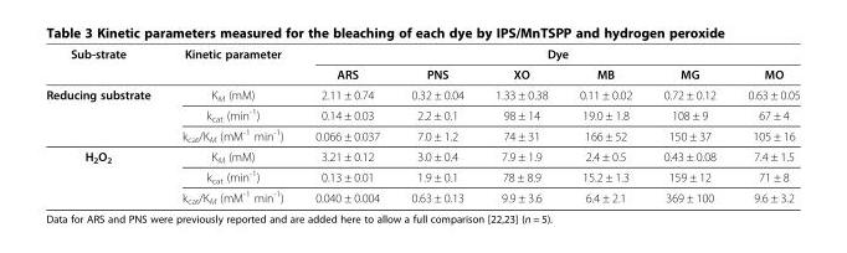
<table><thead><tr><td rowspan="2">Sub-strate</td><td rowspan="2">Kinetic parameter</td><td colspan="6">Dye</td></tr><tr><td>ARS</td><td>PNS</td><td>XO</td><td>MB</td><td>MG</td><td>MO</td></tr></thead><tbody><tr><td rowspan="3">Reducing substrate</td><td>K<sub>M</sub> (mM)</td><td>2.11 ± 0.74</td><td>0.32 ± 0.04</td><td>1.33 ± 0.38</td><td>0.11 ± 0.02</td><td>0.72 ± 0.12</td><td>0.63 ± 0.05</td></tr><tr><td>k<sub>cat</sub> (min<sup>-1</sup>)</td><td>0.14 ± 0.03</td><td>2.2 ± 0.1</td><td>98 ± 14</td><td>19.0 ± 1.8</td><td>108 ± 9</td><td>67 ± 4</td></tr><tr><td>k<sub>cat</sub>/K<sub>M</sub> (mM<sup>-1</sup> min<sup>-1</sup>)</td><td>0.066 ± 0.037</td><td>7.0 ± 1.2</td><td>74 ± 31</td><td>166 ± 52</td><td>150 ± 37</td><td>105 ± 16</td></tr><tr><td rowspan="3">H<sub>2</sub>O<sub>2</sub></td><td>K<sub>M</sub> (mM)</td><td>3.21 ± 0.12</td><td>3.0 ± 0.4</td><td>7.9 ± 1.9</td><td>2.4 ± 0.5</td><td>0.43 ± 0.08</td><td>7.4 ± 1.5</td></tr><tr><td>k<sub>cat</sub> (min<sup>-1</sup>)</td><td>0.13 ± 0.01</td><td>1.9 ± 0.1</td><td>78 ± 8.9</td><td>15.2 ± 1.3</td><td>159 ± 12</td><td>71 ± 8</td></tr><tr><td>k<sub>cat</sub>/K<sub>M</sub> (mM<sup>-1</sup> min<sup>-1</sup>)</td><td>0.040 ± 0.004</td><td>0.63 ± 0.13</td><td>9.9 ± 3.6</td><td>6.4 ± 2.1</td><td>369 ± 100</td><td>9.6 ± 3.2</td></tr></tbody></table>